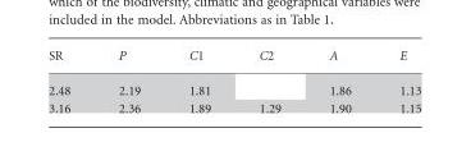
<table><thead><tr><td>SR</td><td>P</td><td>C1</td><td>C2</td><td>A</td><td>E</td></tr></thead><tbody><tr><td>2.48</td><td>2.19</td><td>1.81</td><td></td><td>1.86</td><td>1.13</td></tr><tr><td>3.16</td><td>2.36</td><td>1.89</td><td>1.29</td><td>1.90</td><td>1.15</td></tr></tbody></table>